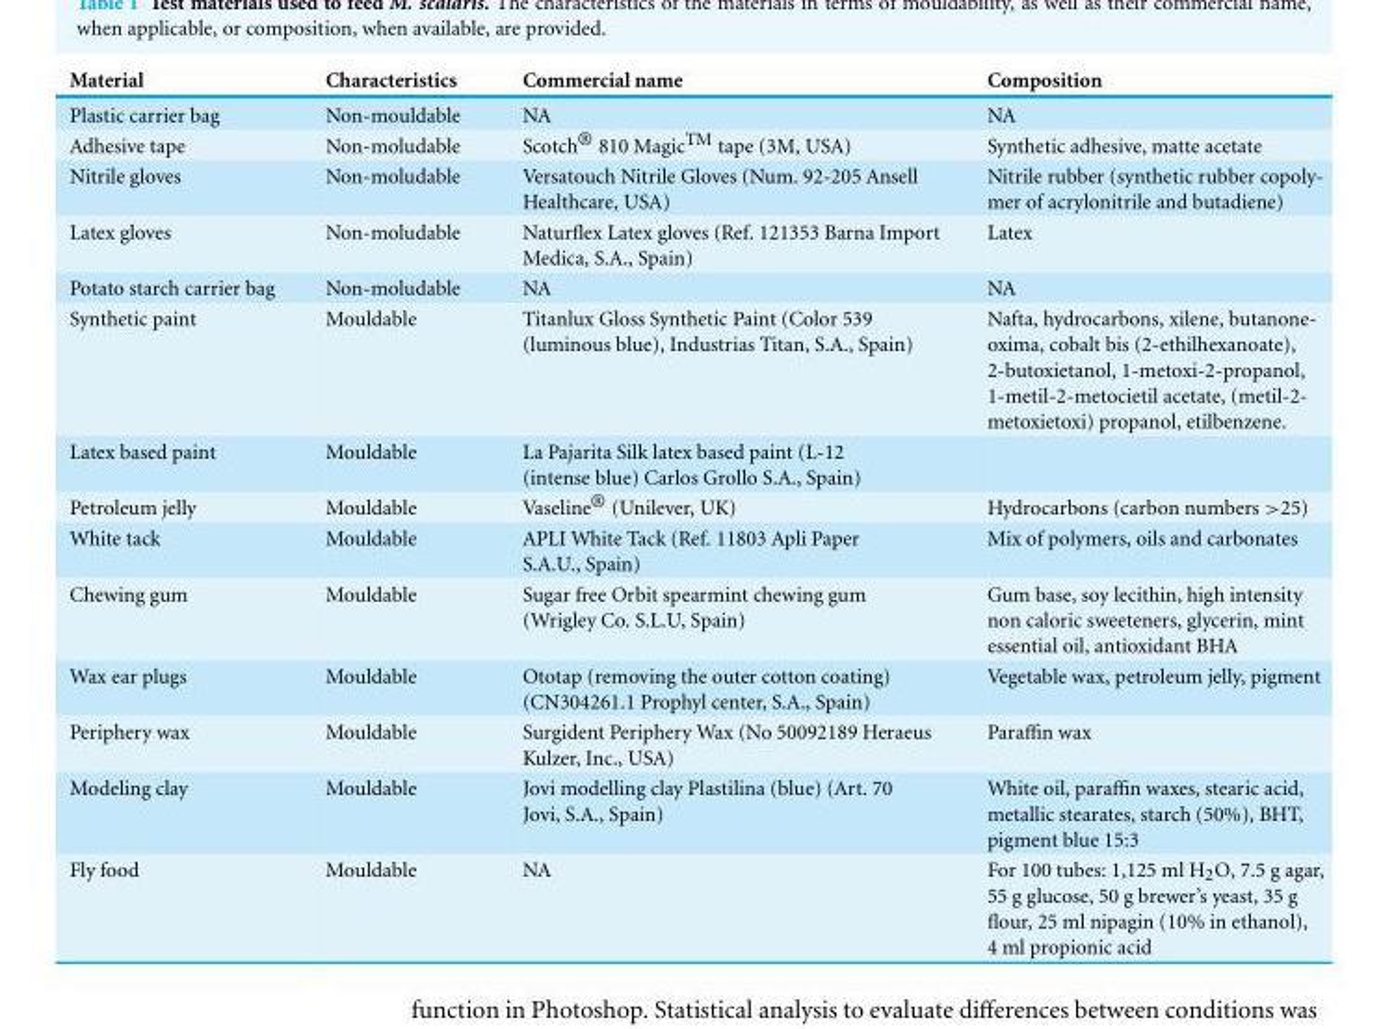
<table><thead><tr><td>Material</td><td>Characteristics</td><td>Commercial name</td><td>Composition</td></tr></thead><tbody><tr><td>Plastic carrier bag</td><td>Non-mouldable</td><td>NA</td><td>NA</td></tr><tr><td>Adhesive tape</td><td>Non-moludable</td><td>Scotch<sup>®</sup> 810 MagicTM tape (3M, USA)</td><td>Synthetic adhesive, matte acetate</td></tr><tr><td>Nitrile gloves</td><td>Non-moludable</td><td>Versatouch Nitrile Gloves (Num. 92-205 Ansell Healthcare, USA)</td><td>Nitrile rubber (synthetic rubber copoly- mer of acrylonitrile and butadiene)</td></tr><tr><td>Latex gloves</td><td>Non-moludable</td><td>Naturflex Latex gloves (Ref. 121353 Barna Import Medica, S.A., Spain)</td><td>Latex</td></tr><tr><td>Potato starch carrier bag</td><td>Non-moludable</td><td>NA</td><td>NA</td></tr><tr><td>Synthetic paint</td><td>Mouldable</td><td>Titanlux Gloss Synthetic Paint (Color 539 (luminous blue), Industrias Titan, S.A., Spain)</td><td>Nafta, hydrocarbons, xilene, butanone- oxima, cobalt bis (2-ethilhexanoate), 2-butoxietanol, 1-metoxi-2-propanol, 1-metil-2-metocietil acetate, (metil-2- metoxietoxi) propanol, etilbenzene.</td></tr><tr><td>Latex based paint</td><td>Mouldable</td><td>La Pajarita Silk latex based paint (L-12 (intense blue) Carlos Grollo S.A., Spain)</td><td></td></tr><tr><td>Petroleum jelly</td><td>Mouldable</td><td>Vaseline<sup>®</sup> (Unilever, UK)</td><td>Hydrocarbons (carbon numbers &gt;25)</td></tr><tr><td>White tack</td><td>Mouldable</td><td>APLI White Tack (Ref. 11803 Apli Paper S.A.U., Spain)</td><td>Mix of polymers, oils and carbonates</td></tr><tr><td>Chewing gum</td><td>Mouldable</td><td>Sugar free Orbit spearmint chewing gum (Wrigley Co. S.L.U, Spain)</td><td>Gum base, soy lecithin, high intensity non caloric sweeteners, glycerin, mint essential oil, antioxidant BHA</td></tr><tr><td>Wax ear plugs</td><td>Mouldable</td><td>Ototap (removing the outer cotton coating) (CN304261.1 Prophyl center, S.A., Spain)</td><td>Vegetable wax, petroleum jelly, pigment</td></tr><tr><td>Periphery wax</td><td>Mouldable</td><td>Surgident Periphery Wax (No 50092189 Heraeus Kulzer, Inc., USA)</td><td>Paraffin wax</td></tr><tr><td>Modeling clay</td><td>Mouldable</td><td>Jovi modelling clay Plastilina (blue) (Art. 70 Jovi, S.A., Spain)</td><td>White oil, paraffin waxes, stearic acid, metallic stearates, starch (50%), BHT, pigment blue 15:3</td></tr><tr><td>Fly food</td><td>Mouldable</td><td>NA</td><td>For 100 tubes: 1,125 ml H<sub>2</sub>O, 7.5 g agar, 55 g glucose, 50 g brewer’s yeast, 35 g flour, 25 ml nipagin (10% in ethanol), 4 ml propionic acid</td></tr></tbody></table>